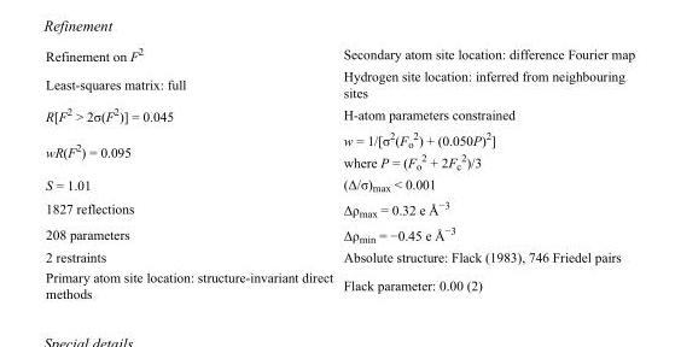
<table><tbody><tr><td>Refinement on F<sup>2</sup></td><td>Secondary atom site location: difference Fourier map</td></tr><tr><td>Least-squares matrix: full</td><td>Hydrogen site location: inferred from neighbouring sites</td></tr><tr><td>R[F<sup>2</sup> &gt; 2σ(F<sup>2</sup>)] = 0.045</td><td>H-atom parameters constrained</td></tr><tr><td>wR(F<sup>2</sup>) = 0.095</td><td>w = 1/[σ<sup>2</sup>(F<sub>o</sub> <sup>2</sup>) + (0.050P)<sup>2</sup>] where P = (F<sub>o</sub> <sup>2</sup> + 2F<sub>c</sub> <sup>2</sup>)/3</td></tr><tr><td>S = 1.01</td><td>(Δ/σ)<sub>max</sub> &lt; 0.001</td></tr><tr><td>1827 reflections</td><td>Δρ<sub>max</sub> = 0.32 e Å<sup>−3</sup></td></tr><tr><td>208 parameters</td><td>Δρ<sub>min</sub> = −0.45 e Å<sup>−3</sup></td></tr><tr><td>2 restraints</td><td>Absolute structure: Flack (1983), 746 Friedel pairs</td></tr><tr><td>Primary atom site location: structure-invariant direct methods</td><td>Flack parameter: 0.00 (2)</td></tr></tbody></table>